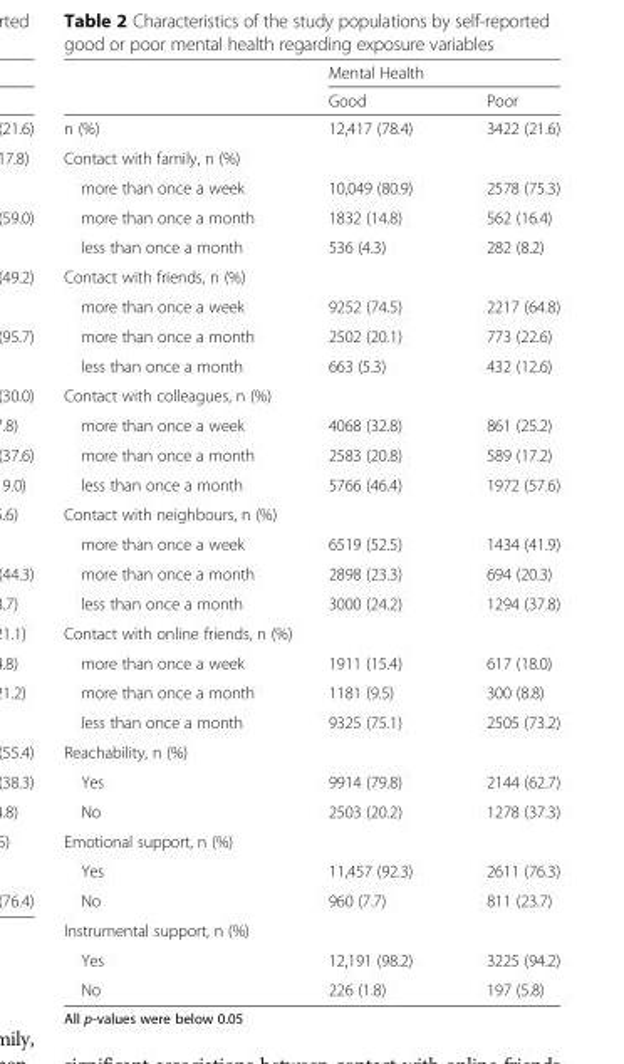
<table><thead><tr><td rowspan="2"></td><td colspan="2">Mental Health</td></tr><tr><td>Good</td><td>Poor</td></tr></thead><tbody><tr><td>n (%)</td><td>12,417 (78.4)</td><td>3422 (21.6)</td></tr><tr><td colspan="3">Contact with family, n (%)</td></tr><tr><td>more than once a week</td><td>10,049 (80.9)</td><td>2578 (75.3)</td></tr><tr><td>more than once a month</td><td>1832 (14.8)</td><td>562 (16.4)</td></tr><tr><td>less than once a month</td><td>536 (4.3)</td><td>282 (8.2)</td></tr><tr><td colspan="3">Contact with friends, n (%)</td></tr><tr><td>more than once a week</td><td>9252 (74.5)</td><td>2217 (64.8)</td></tr><tr><td>more than once a month</td><td>2502 (20.1)</td><td>773 (22.6)</td></tr><tr><td>less than once a month</td><td>663 (5.3)</td><td>432 (12.6)</td></tr><tr><td colspan="3">Contact with colleagues, n (%)</td></tr><tr><td>more than once a week</td><td>4068 (32.8)</td><td>861 (25.2)</td></tr><tr><td>more than once a month</td><td>2583 (20.8)</td><td>589 (17.2)</td></tr><tr><td>less than once a month</td><td>5766 (46.4)</td><td>1972 (57.6)</td></tr><tr><td colspan="3">Contact with neighbours, n (%)</td></tr><tr><td>more than once a week</td><td>6519 (52.5)</td><td>1434 (41.9)</td></tr><tr><td>more than once a month</td><td>2898 (23.3)</td><td>694 (20.3)</td></tr><tr><td>less than once a month</td><td>3000 (24.2)</td><td>1294 (37.8)</td></tr><tr><td colspan="3">Contact with online friends, n (%)</td></tr><tr><td>more than once a week</td><td>1911 (15.4)</td><td>617 (18.0)</td></tr><tr><td>more than once a month</td><td>1181 (9.5)</td><td>300 (8.8)</td></tr><tr><td>less than once a month</td><td>9325 (75.1)</td><td>2505 (73.2)</td></tr><tr><td colspan="3">Reachability, n (%)</td></tr><tr><td>Yes</td><td>9914 (79.8)</td><td>2144 (62.7)</td></tr><tr><td>No</td><td>2503 (20.2)</td><td>1278 (37.3)</td></tr><tr><td colspan="3">Emotional support, n (%)</td></tr><tr><td>Yes</td><td>11,457 (92.3)</td><td>2611 (76.3)</td></tr><tr><td>No</td><td>960 (7.7)</td><td>811 (23.7)</td></tr><tr><td colspan="3">Instrumental support, n (%)</td></tr><tr><td>Yes</td><td>12,191 (98.2)</td><td>3225 (94.2)</td></tr><tr><td>No</td><td>226 (1.8)</td><td>197 (5.8)</td></tr></tbody></table>